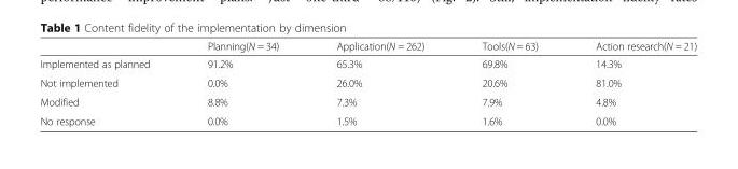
<table><thead><tr><td></td><td>Planning(N = 34)</td><td>Application(N = 262)</td><td>Tools(N = 63)</td><td>Action research(N = 21)</td></tr></thead><tbody><tr><td>Implemented as planned</td><td>91.2%</td><td>65.3%</td><td>69.8%</td><td>14.3%</td></tr><tr><td>Not implemented</td><td>0.0%</td><td>26.0%</td><td>20.6%</td><td>81.0%</td></tr><tr><td>Modified</td><td>8.8%</td><td>7.3%</td><td>7.9%</td><td>4.8%</td></tr><tr><td>No response</td><td>0.0%</td><td>1.5%</td><td>1.6%</td><td>0.0%</td></tr></tbody></table>